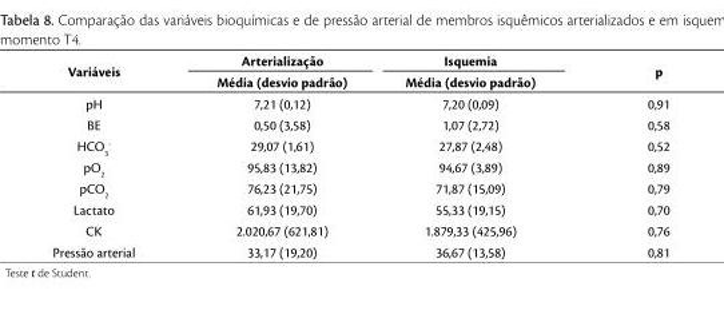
<table><thead><tr><td rowspan="2">Variáveis</td><td rowspan="2">Arterialização Média (desvio padrão)</td><td rowspan="2">Isquemia Média (desvio padrão)</td><td rowspan="2">p</td></tr><tr></tr></thead><tbody><tr><td>pH</td><td>7,21 (0,12)</td><td>7,20 (0,09)</td><td>0,91</td></tr><tr><td>BE</td><td>0,50 (3,58)</td><td>1,07 (2,72)</td><td>0,58</td></tr><tr><td>HCO<sub>3</sub> <sup>-</sup></td><td>29,07 (1,61)</td><td>27,87 (2,48)</td><td>0,52</td></tr><tr><td>pO<sub>2</sub></td><td>95,83 (13,82)</td><td>94,67 (3,89)</td><td>0,89</td></tr><tr><td>pCO<sub>2</sub></td><td>76,23 (21,75)</td><td>71,87 (15,09)</td><td>0,79</td></tr><tr><td>Lactato</td><td>61,93 (19,70)</td><td>55,33 (19,15)</td><td>0,70</td></tr><tr><td>CK</td><td>2.020,67 (621,81)</td><td>1.879,33 (425,96)</td><td>0,76</td></tr><tr><td>Pressão arterial</td><td>33,17 (19,20)</td><td>36,67 (13,58)</td><td>0,81</td></tr></tbody></table>